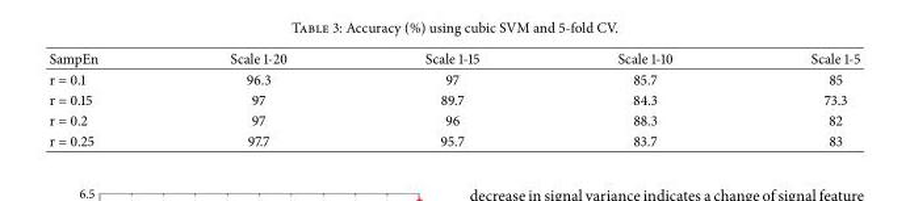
<table><thead><tr><td>SampEn</td><td>Scale 1-20</td><td>Scale 1-15</td><td>Scale 1-10</td><td>Scale 1-5</td></tr></thead><tbody><tr><td>r = 0.1</td><td>96.3</td><td>97</td><td>85.7</td><td>85</td></tr><tr><td>r = 0.15</td><td>97</td><td>89.7</td><td>84.3</td><td>73.3</td></tr><tr><td>r = 0.2</td><td>97</td><td>96</td><td>88.3</td><td>82</td></tr><tr><td>r = 0.25</td><td>97.7</td><td>95.7</td><td>83.7</td><td>83</td></tr></tbody></table>